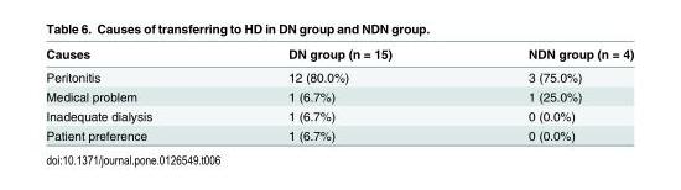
<table><thead><tr><td>Causes</td><td>DN group (n = 15)</td><td>NDN group (n = 4)</td></tr></thead><tbody><tr><td>Peritonitis</td><td>12 (80.0%)</td><td>3 (75.0%)</td></tr><tr><td>Medical problem</td><td>1 (6.7%)</td><td>1 (25.0%)</td></tr><tr><td>Inadequate dialysis</td><td>1 (6.7%)</td><td>0 (0.0%)</td></tr><tr><td>Patient preference</td><td>1 (6.7%)</td><td>0 (0.0%)</td></tr></tbody></table>